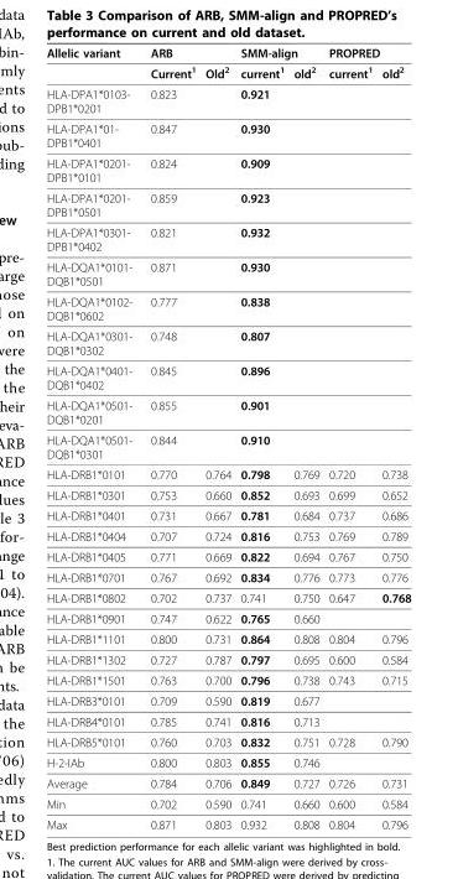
<table><thead><tr><td rowspan="2">Allelic variant</td><td colspan="2">ARB</td><td colspan="2">SMM-align</td><td colspan="2">PROPRED</td></tr><tr><td>Current1</td><td>Old2</td><td>current1</td><td>old2</td><td>current1</td><td>old2</td></tr></thead><tbody><tr><td>HLA-DPA1*0103- DPB1*0201</td><td>0.823</td><td></td><td>0.921</td><td></td><td></td><td></td></tr><tr><td>HLA-DPA1*01- DPB1*0401</td><td>0.847</td><td></td><td>0.930</td><td></td><td></td><td></td></tr><tr><td>HLA-DPA1*0201- DPB1*0101</td><td>0.824</td><td></td><td>0.909</td><td></td><td></td><td></td></tr><tr><td>HLA-DPA1*0201- DPB1*0501</td><td>0.859</td><td></td><td>0.923</td><td></td><td></td><td></td></tr><tr><td>HLA-DPA1*0301- DPB1*0402</td><td>0.821</td><td></td><td>0.932</td><td></td><td></td><td></td></tr><tr><td>HLA-DQA1*0101- DQB1*0501</td><td>0.871</td><td></td><td>0.930</td><td></td><td></td><td></td></tr><tr><td>HLA-DQA1*0102- DQB1*0602</td><td>0.777</td><td></td><td>0.838</td><td></td><td></td><td></td></tr><tr><td>HLA-DQA1*0301- DQB1*0302</td><td>0.748</td><td></td><td>0.807</td><td></td><td></td><td></td></tr><tr><td>HLA-DQA1*0401- DQB1*0402</td><td>0.845</td><td></td><td>0.896</td><td></td><td></td><td></td></tr><tr><td>HLA-DQA1*0501- DQB1*0201</td><td>0.855</td><td></td><td>0.901</td><td></td><td></td><td></td></tr><tr><td>HLA-DQA1*0501- DQB1*0301</td><td>0.844</td><td></td><td>0.910</td><td></td><td></td><td></td></tr><tr><td>HLA-DRB1*0101</td><td>0.770</td><td>0.764</td><td>0.798</td><td>0.769</td><td>0.720</td><td>0.738</td></tr><tr><td>HLA-DRB1*0301</td><td>0.753</td><td>0.660</td><td>0.852</td><td>0.693</td><td>0.699</td><td>0.652</td></tr><tr><td>HLA-DRB1*0401</td><td>0.731</td><td>0.667</td><td>0.781</td><td>0.684</td><td>0.737</td><td>0.686</td></tr><tr><td>HLA-DRB1*0404</td><td>0.707</td><td>0.724</td><td>0.816</td><td>0.753</td><td>0.769</td><td>0.789</td></tr><tr><td>HLA-DRB1*0405</td><td>0.771</td><td>0.669</td><td>0.822</td><td>0.694</td><td>0.767</td><td>0.750</td></tr><tr><td>HLA-DRB1*0701</td><td>0.767</td><td>0.692</td><td>0.834</td><td>0.776</td><td>0.773</td><td>0.776</td></tr><tr><td>HLA-DRB1*0802</td><td>0.702</td><td>0.737</td><td>0.741</td><td>0.750</td><td>0.647</td><td>0.768</td></tr><tr><td>HLA-DRB1*0901</td><td>0.747</td><td>0.622</td><td>0.765</td><td>0.660</td><td></td><td></td></tr><tr><td>HLA-DRB1*1101</td><td>0.800</td><td>0.731</td><td>0.864</td><td>0.808</td><td>0.804</td><td>0.796</td></tr><tr><td>HLA-DRB1*1302</td><td>0.727</td><td>0.787</td><td>0.797</td><td>0.695</td><td>0.600</td><td>0.584</td></tr><tr><td>HLA-DRB1*1501</td><td>0.763</td><td>0.700</td><td>0.796</td><td>0.738</td><td>0.743</td><td>0.715</td></tr><tr><td>HLA-DRB3*0101</td><td>0.709</td><td>0.590</td><td>0.819</td><td>0.677</td><td></td><td></td></tr><tr><td>HLA-DRB4*0101</td><td>0.785</td><td>0.741</td><td>0.816</td><td>0.713</td><td></td><td></td></tr><tr><td>HLA-DRB5*0101</td><td>0.760</td><td>0.703</td><td>0.832</td><td>0.751</td><td>0.728</td><td>0.790</td></tr><tr><td>H-2-IAb</td><td>0.800</td><td>0.803</td><td>0.855</td><td>0.746</td><td></td><td></td></tr><tr><td>Average</td><td>0.784</td><td>0.706</td><td>0.849</td><td>0.727</td><td>0.726</td><td>0.731</td></tr><tr><td>Min</td><td>0.702</td><td>0.590</td><td>0.741</td><td>0.660</td><td>0.600</td><td>0.584</td></tr><tr><td>Max</td><td>0.871</td><td>0.803</td><td>0.932</td><td>0.808</td><td>0.804</td><td>0.796</td></tr></tbody></table>